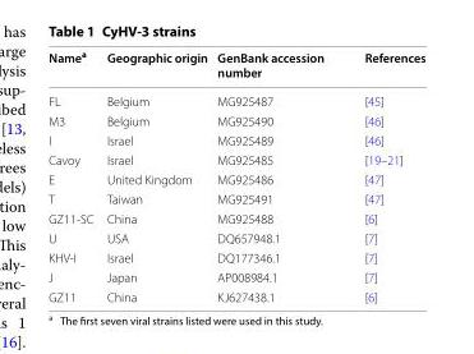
<table><thead><tr><td>Name<sup>a</sup></td><td>Geographic origin</td><td>GenBank accession number</td><td>References</td></tr></thead><tbody><tr><td>FL</td><td>Belgium</td><td>MG925487</td><td>[45]</td></tr><tr><td>M3</td><td>Belgium</td><td>MG925490</td><td>[46]</td></tr><tr><td>I</td><td>Israel</td><td>MG925489</td><td>[46]</td></tr><tr><td>Cavoy</td><td>Israel</td><td>MG925485</td><td>[19–21]</td></tr><tr><td>E</td><td>United Kingdom</td><td>MG925486</td><td>[47]</td></tr><tr><td>T</td><td>Taiwan</td><td>MG925491</td><td>[47]</td></tr><tr><td>GZ11‑SC</td><td>China</td><td>MG925488</td><td>[6]</td></tr><tr><td>U</td><td>USA</td><td>DQ657948.1</td><td>[7]</td></tr><tr><td>KHV‑I</td><td>Israel</td><td>DQ177346.1</td><td>[7]</td></tr><tr><td>J</td><td>Japan</td><td>AP008984.1</td><td>[7]</td></tr><tr><td>GZ11</td><td>China</td><td>KJ627438.1</td><td>[6]</td></tr></tbody></table>